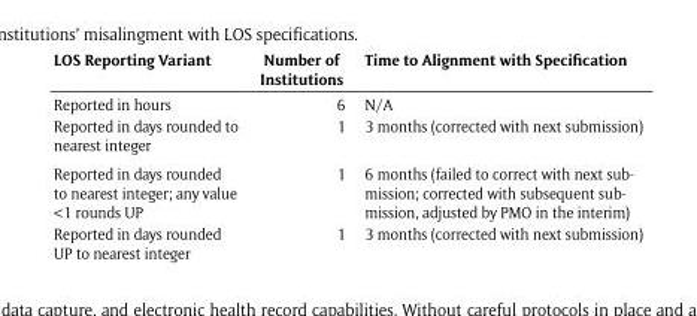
<table><thead><tr><td>LOS Reporting Variant</td><td>Number of Institutions</td><td>Time to Alignment with Specification</td></tr></thead><tbody><tr><td>Reported in hours</td><td>6</td><td>N/A</td></tr><tr><td>Reported in days rounded to nearest integer</td><td>1</td><td>3 months (corrected with next submission)</td></tr><tr><td>Reported in days rounded to nearest integer; any value &lt;1 rounds UP</td><td>1</td><td>6 months (failed to correct with next sub- mission; corrected with subsequent sub- mission, adjusted by PMO in the interim)</td></tr><tr><td>Reported in days rounded UP to nearest integer</td><td>1</td><td>3 months (corrected with next submission)</td></tr></tbody></table>